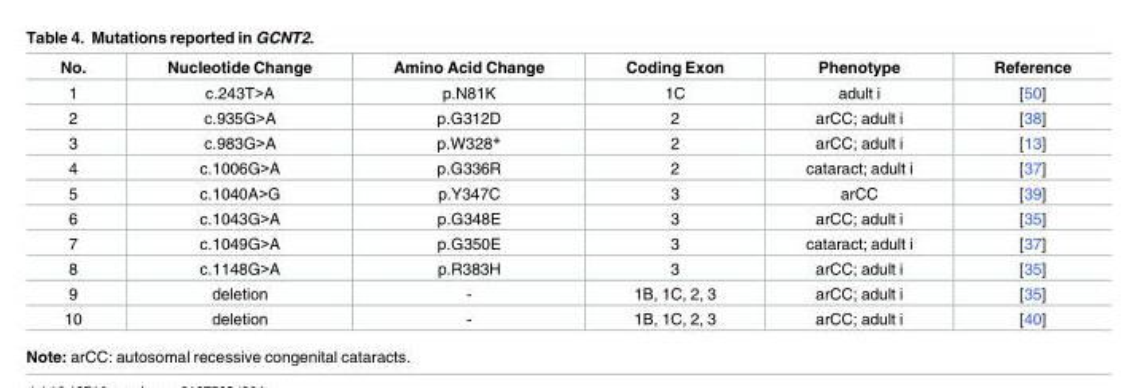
<table><thead><tr><td>No.</td><td>Nucleotide Change</td><td>Amino Acid Change</td><td>Coding Exon</td><td>Phenotype</td><td>Reference</td></tr></thead><tbody><tr><td>1</td><td>c.243T&gt;A</td><td>p.N81K</td><td>1C</td><td>adult i</td><td>[50]</td></tr><tr><td>2</td><td>c.935G&gt;A</td><td>p.G312D</td><td>2</td><td>arCC; adult i</td><td>[38]</td></tr><tr><td>3</td><td>c.983G&gt;A</td><td>p.W328*</td><td>2</td><td>arCC; adult i</td><td>[13]</td></tr><tr><td>4</td><td>c.1006G&gt;A</td><td>p.G336R</td><td>2</td><td>cataract; adult i</td><td>[37]</td></tr><tr><td>5</td><td>c.1040A&gt;G</td><td>p.Y347C</td><td>3</td><td>arCC</td><td>[39]</td></tr><tr><td>6</td><td>c.1043G&gt;A</td><td>p.G348E</td><td>3</td><td>arCC; adult i</td><td>[35]</td></tr><tr><td>7</td><td>c.1049G&gt;A</td><td>p.G350E</td><td>3</td><td>cataract; adult i</td><td>[37]</td></tr><tr><td>8</td><td>c.1148G&gt;A</td><td>p.R383H</td><td>3</td><td>arCC; adult i</td><td>[35]</td></tr><tr><td>9</td><td>deletion</td><td>-</td><td>1B, 1C, 2, 3</td><td>arCC; adult i</td><td>[35]</td></tr><tr><td>10</td><td>deletion</td><td>-</td><td>1B, 1C, 2, 3</td><td>arCC; adult i</td><td>[40]</td></tr></tbody></table>